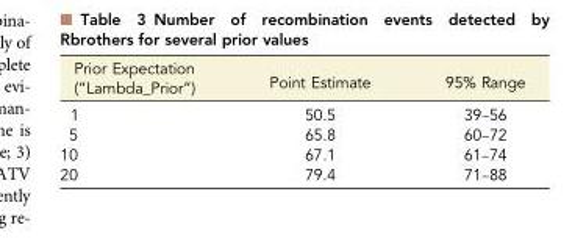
<table><thead><tr><td>Prior Expectation (“Lambda_Prior”)</td><td>Point Estimate</td><td>95% Range</td></tr></thead><tbody><tr><td>1</td><td>50.5</td><td>39–56</td></tr><tr><td>5</td><td>65.8</td><td>60–72</td></tr><tr><td>10</td><td>67.1</td><td>61–74</td></tr><tr><td>20</td><td>79.4</td><td>71–88</td></tr></tbody></table>